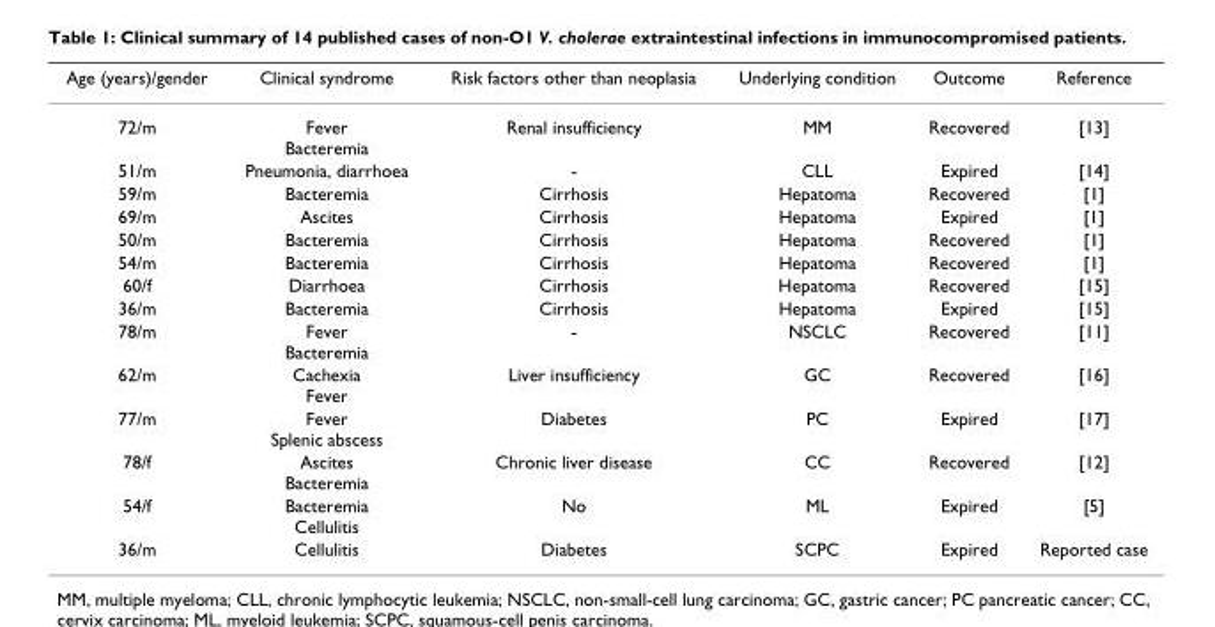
<table><thead><tr><td>Age (years)/gender</td><td>Clinical syndrome</td><td>Risk factors other than neoplasia</td><td>Underlying condition</td><td>Outcome</td><td>Reference</td></tr></thead><tbody><tr><td>72/m</td><td>Fever Bacteremia</td><td>Renal insufficiency</td><td>MM</td><td>Recovered</td><td>[13]</td></tr><tr><td>51/m</td><td>Pneumonia, diarrhoea</td><td>-</td><td>CLL</td><td>Expired</td><td>[14]</td></tr><tr><td>59/m</td><td>Bacteremia</td><td>Cirrhosis</td><td>Hepatoma</td><td>Recovered</td><td>[1]</td></tr><tr><td>69/m</td><td>Ascites</td><td>Cirrhosis</td><td>Hepatoma</td><td>Expired</td><td>[1]</td></tr><tr><td>50/m</td><td>Bacteremia</td><td>Cirrhosis</td><td>Hepatoma</td><td>Recovered</td><td>[1]</td></tr><tr><td>54/m</td><td>Bacteremia</td><td>Cirrhosis</td><td>Hepatoma</td><td>Recovered</td><td>[1]</td></tr><tr><td>60/f</td><td>Diarrhoea</td><td>Cirrhosis</td><td>Hepatoma</td><td>Recovered</td><td>[15]</td></tr><tr><td>36/m</td><td>Bacteremia</td><td>Cirrhosis</td><td>Hepatoma</td><td>Expired</td><td>[15]</td></tr><tr><td>78/m</td><td>Fever Bacteremia</td><td>-</td><td>NSCLC</td><td>Recovered</td><td>[11]</td></tr><tr><td>62/m</td><td>Cachexia Fever</td><td>Liver insufficiency</td><td>GC</td><td>Recovered</td><td>[16]</td></tr><tr><td>77/m</td><td>Fever Splenic abscess</td><td>Diabetes</td><td>PC</td><td>Expired</td><td>[17]</td></tr><tr><td>78/f</td><td>Ascites Bacteremia</td><td>Chronic liver disease</td><td>CC</td><td>Recovered</td><td>[12]</td></tr><tr><td>54/f</td><td>Bacteremia Cellulitis</td><td>No</td><td>ML</td><td>Expired</td><td>[5]</td></tr><tr><td>36/m</td><td>Cellulitis</td><td>Diabetes</td><td>SCPC</td><td>Expired</td><td>Reported case</td></tr></tbody></table>